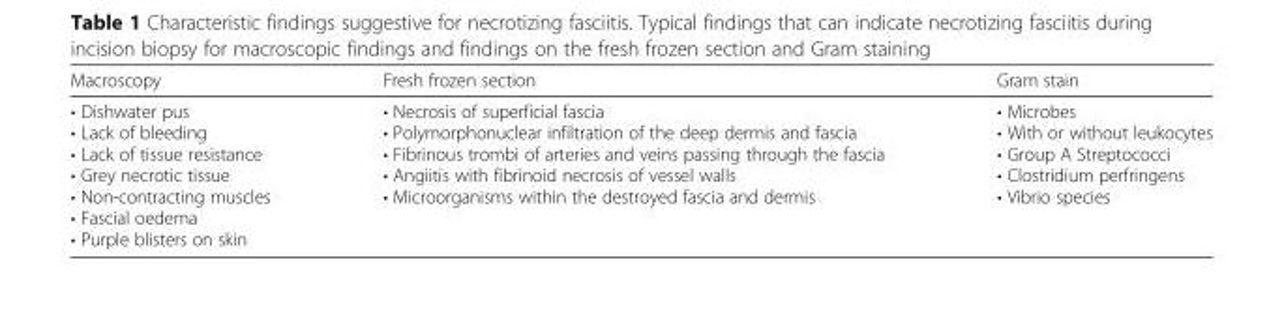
<table><thead><tr><td>Macroscopy</td><td>Fresh frozen section</td><td>Gram stain</td></tr></thead><tbody><tr><td>• Dishwater pus • Lack of bleeding • Lack of tissue resistance • Grey necrotic tissue • Non-contracting muscles • Fascial oedema • Purple blisters on skin</td><td>• Necrosis of superficial fascia • Polymorphonuclear infiltration of the deep dermis and fascia • Fibrinous trombi of arteries and veins passing through the fascia • Angiitis with fibrinoid necrosis of vessel walls • Microorganisms within the destroyed fascia and dermis</td><td>• Microbes • With or without leukocytes • Group A Streptococci • Clostridium perfringens • Vibrio species</td></tr></tbody></table>